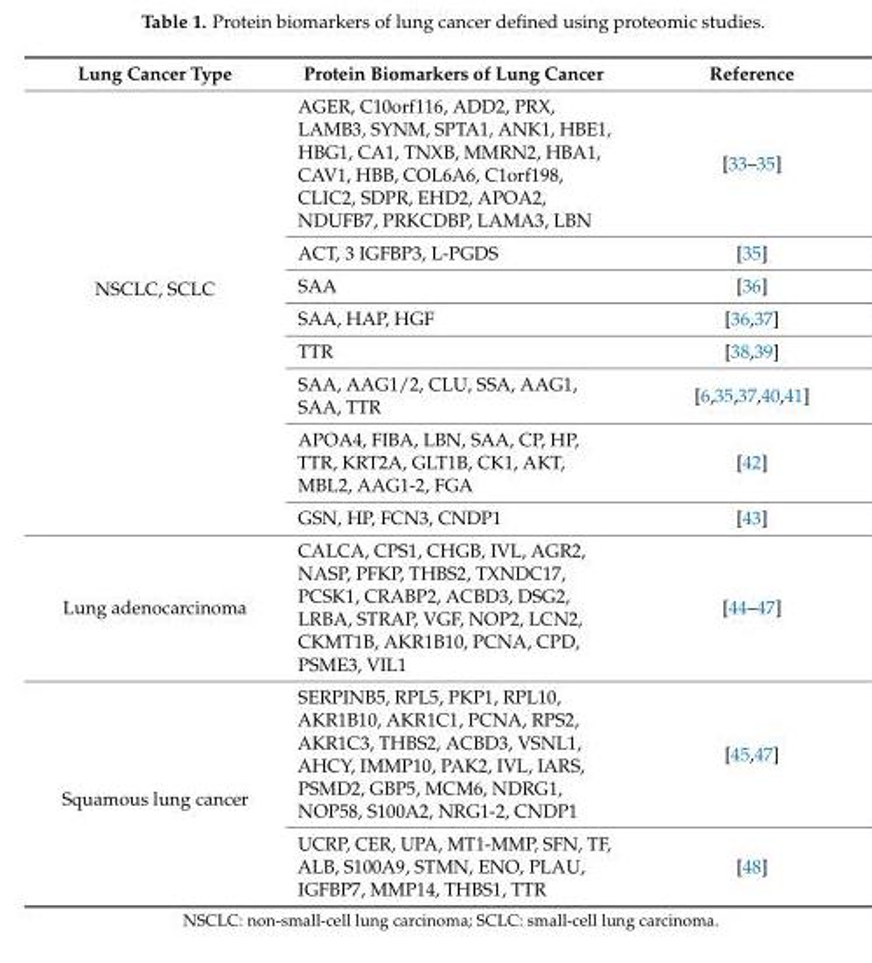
<table><thead><tr><td>Lung Cancer Type</td><td>Protein Biomarkers of Lung Cancer</td><td>Reference</td></tr></thead><tbody><tr><td rowspan="8">NSCLC, SCLC</td><td>AGER, C10orf116, ADD2, PRX, LAMB3, SYNM, SPTA1, ANK1, HBE1, HBG1, CA1, TNXB, MMRN2, HBA1, CAV1, HBB, COL6A6, C1orf198, CLIC2, SDPR, EHD2, APOA2, NDUFB7, PRKCDBP, LAMA3, LBN</td><td>[33–35]</td></tr><tr><td>ACT, 3 IGFBP3, L-PGDS</td><td>[35]</td></tr><tr><td>SAA</td><td>[36]</td></tr><tr><td>SAA, HAP, HGF</td><td>[36,37]</td></tr><tr><td>TTR</td><td>[38,39]</td></tr><tr><td>SAA, AAG1/2, CLU, SSA, AAG1, SAA, TTR</td><td>[6,35,37,40,41]</td></tr><tr><td>APOA4, FIBA, LBN, SAA, CP, HP, TTR, KRT2A, GLT1B, CK1, AKT, MBL2, AAG1-2, FGA</td><td>[42]</td></tr><tr><td>GSN, HP, FCN3, CNDP1</td><td>[43]</td></tr><tr><td>Lung adenocarcinoma</td><td>CALCA, CPS1, CHGB, IVL, AGR2, NASP, PFKP, THBS2, TXNDC17, PCSK1, CRABP2, ACBD3, DSG2, LRBA, STRAP, VGF, NOP2, LCN2, CKMT1B, AKR1B10, PCNA, CPD, PSME3, VIL1</td><td>[44–47]</td></tr><tr><td rowspan="2">Squamous lung cancer</td><td>SERPINB5, RPL5, PKP1, RPL10, AKR1B10, AKR1C1, PCNA, RPS2, AKR1C3, THBS2, ACBD3, VSNL1, AHCY, IMMP10, PAK2, IVL, IARS, PSMD2, GBP5, MCM6, NDRG1, NOP58, S100A2, NRG1-2, CNDP1</td><td>[45,47]</td></tr><tr><td>UCRP, CER, UPA, MT1-MMP, SFN, TF, ALB, S100A9, STMN, ENO, PLAU, IGFBP7, MMP14, THBS1, TTR</td><td>[48]</td></tr></tbody></table>